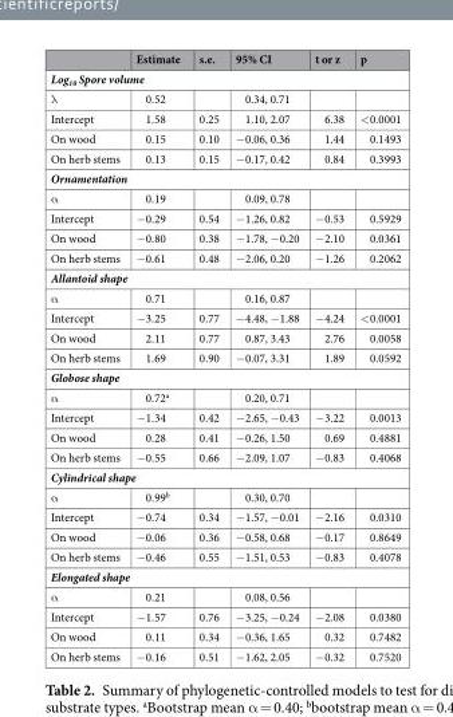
<table><thead><tr><td></td><td>Estimate</td><td>s.e.</td><td>95% CI</td><td>t or z</td><td>p</td></tr></thead><tbody><tr><td colspan="6">Log<sub>10</sub> Spore volume</td></tr><tr><td>λ</td><td>0.52</td><td></td><td>0.34, 0.71</td><td></td><td></td></tr><tr><td>Intercept</td><td>1.58</td><td>0.25</td><td>1.10, 2.07</td><td>6.38</td><td>&lt;0.0001</td></tr><tr><td>On wood</td><td>0.15</td><td>0.10</td><td>−0.06, 0.36</td><td>1.44</td><td>0.1493</td></tr><tr><td>On herb stems</td><td>0.13</td><td>0.15</td><td>−0.17, 0.42</td><td>0.84</td><td>0.3993</td></tr><tr><td colspan="6">Ornamentation</td></tr><tr><td>α</td><td>0.19</td><td></td><td>0.09, 0.78</td><td></td><td></td></tr><tr><td>Intercept</td><td>−0.29</td><td>0.54</td><td>−1.26, 0.82</td><td>−0.53</td><td>0.5929</td></tr><tr><td>On wood</td><td>−0.80</td><td>0.38</td><td>−1.78, −0.20</td><td>−2.10</td><td>0.0361</td></tr><tr><td>On herb stems</td><td>−0.61</td><td>0.48</td><td>−2.06, 0.20</td><td>−1.26</td><td>0.2062</td></tr><tr><td colspan="6">Allantoid shape</td></tr><tr><td>α</td><td>0.71</td><td></td><td>0.16, 0.87</td><td></td><td></td></tr><tr><td>Intercept</td><td>−3.25</td><td>0.77</td><td>−4.48, −1.88</td><td>−4.24</td><td>&lt;0.0001</td></tr><tr><td>On wood</td><td>2.11</td><td>0.77</td><td>0.87, 3.43</td><td>2.76</td><td>0.0058</td></tr><tr><td>On herb stems</td><td>1.69</td><td>0.90</td><td>−0.07, 3.31</td><td>1.89</td><td>0.0592</td></tr><tr><td colspan="6">Globose shape</td></tr><tr><td>α</td><td>0.72<sup>a</sup></td><td></td><td>0.20, 0.71</td><td></td><td></td></tr><tr><td>Intercept</td><td>−1.34</td><td>0.42</td><td>−2.65, −0.43</td><td>−3.22</td><td>0.0013</td></tr><tr><td>On wood</td><td>0.28</td><td>0.41</td><td>−0.26, 1.50</td><td>0.69</td><td>0.4881</td></tr><tr><td>On herb stems</td><td>−0.55</td><td>0.66</td><td>−2.09, 1.07</td><td>−0.83</td><td>0.4068</td></tr><tr><td colspan="6">Cylindrical shape</td></tr><tr><td>α</td><td>0.99<sup>b</sup></td><td></td><td>0.30, 0.70</td><td></td><td></td></tr><tr><td>Intercept</td><td>−0.74</td><td>0.34</td><td>−1.57, −0.01</td><td>−2.16</td><td>0.0310</td></tr><tr><td>On wood</td><td>−0.06</td><td>0.36</td><td>−0.58, 0.68</td><td>−0.17</td><td>0.8649</td></tr><tr><td>On herb stems</td><td>−0.46</td><td>0.55</td><td>−1.51, 0.53</td><td>−0.83</td><td>0.4078</td></tr><tr><td colspan="6">Elongated shape</td></tr><tr><td>α</td><td>0.21</td><td></td><td>0.08, 0.56</td><td></td><td></td></tr><tr><td>Intercept</td><td>−1.57</td><td>0.76</td><td>−3.25, −0.24</td><td>−2.08</td><td>0.0380</td></tr><tr><td>On wood</td><td>0.11</td><td>0.34</td><td>−0.36, 1.65</td><td>0.32</td><td>0.7482</td></tr><tr><td>On herb stems</td><td>−0.16</td><td>0.51</td><td>−1.62, 2.05</td><td>−0.32</td><td>0.7520</td></tr></tbody></table>